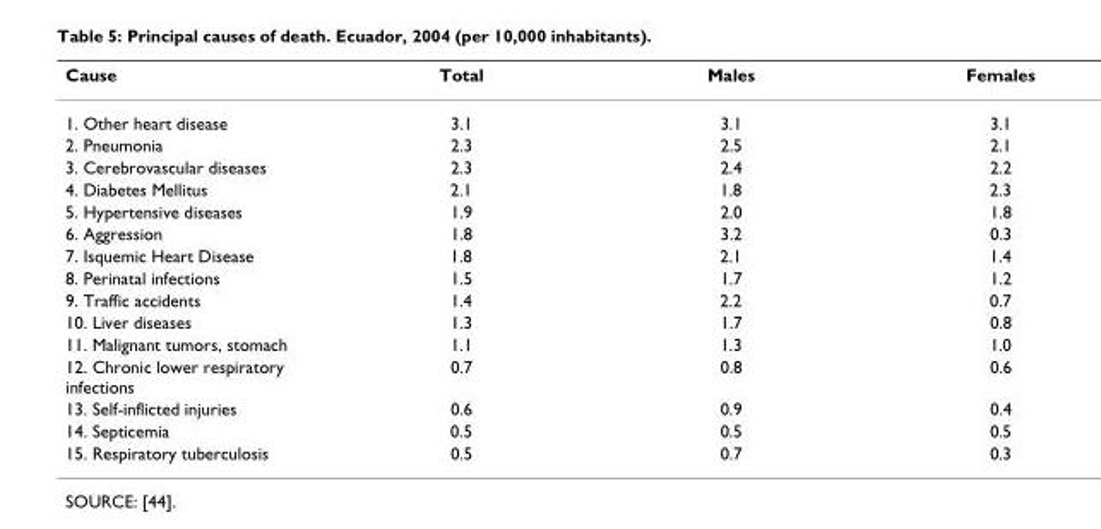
<table><thead><tr><td>Cause</td><td>Total</td><td>Males</td><td>Females</td></tr></thead><tbody><tr><td>1. Other heart disease</td><td>3.1</td><td>3.1</td><td>3.1</td></tr><tr><td>2. Pneumonia</td><td>2.3</td><td>2.5</td><td>2.1</td></tr><tr><td>3. Cerebrovascular diseases</td><td>2.3</td><td>2.4</td><td>2.2</td></tr><tr><td>4. Diabetes Mellitus</td><td>2.1</td><td>1.8</td><td>2.3</td></tr><tr><td>5. Hypertensive diseases</td><td>1.9</td><td>2.0</td><td>1.8</td></tr><tr><td>6. Aggression</td><td>1.8</td><td>3.2</td><td>0.3</td></tr><tr><td>7. Isquemic Heart Disease</td><td>1.8</td><td>2.1</td><td>1.4</td></tr><tr><td>8. Perinatal infections</td><td>1.5</td><td>1.7</td><td>1.2</td></tr><tr><td>9. Traffic accidents</td><td>1.4</td><td>2.2</td><td>0.7</td></tr><tr><td>10. Liver diseases</td><td>1.3</td><td>1.7</td><td>0.8</td></tr><tr><td>11. Malignant tumors, stomach</td><td>1.1</td><td>1.3</td><td>1.0</td></tr><tr><td>12. Chronic lower respiratory infections</td><td>0.7</td><td>0.8</td><td>0.6</td></tr><tr><td>13. Self-inflicted injuries</td><td>0.6</td><td>0.9</td><td>0.4</td></tr><tr><td>14. Septicemia</td><td>0.5</td><td>0.5</td><td>0.5</td></tr><tr><td>15. Respiratory tuberculosis</td><td>0.5</td><td>0.7</td><td>0.3</td></tr></tbody></table>